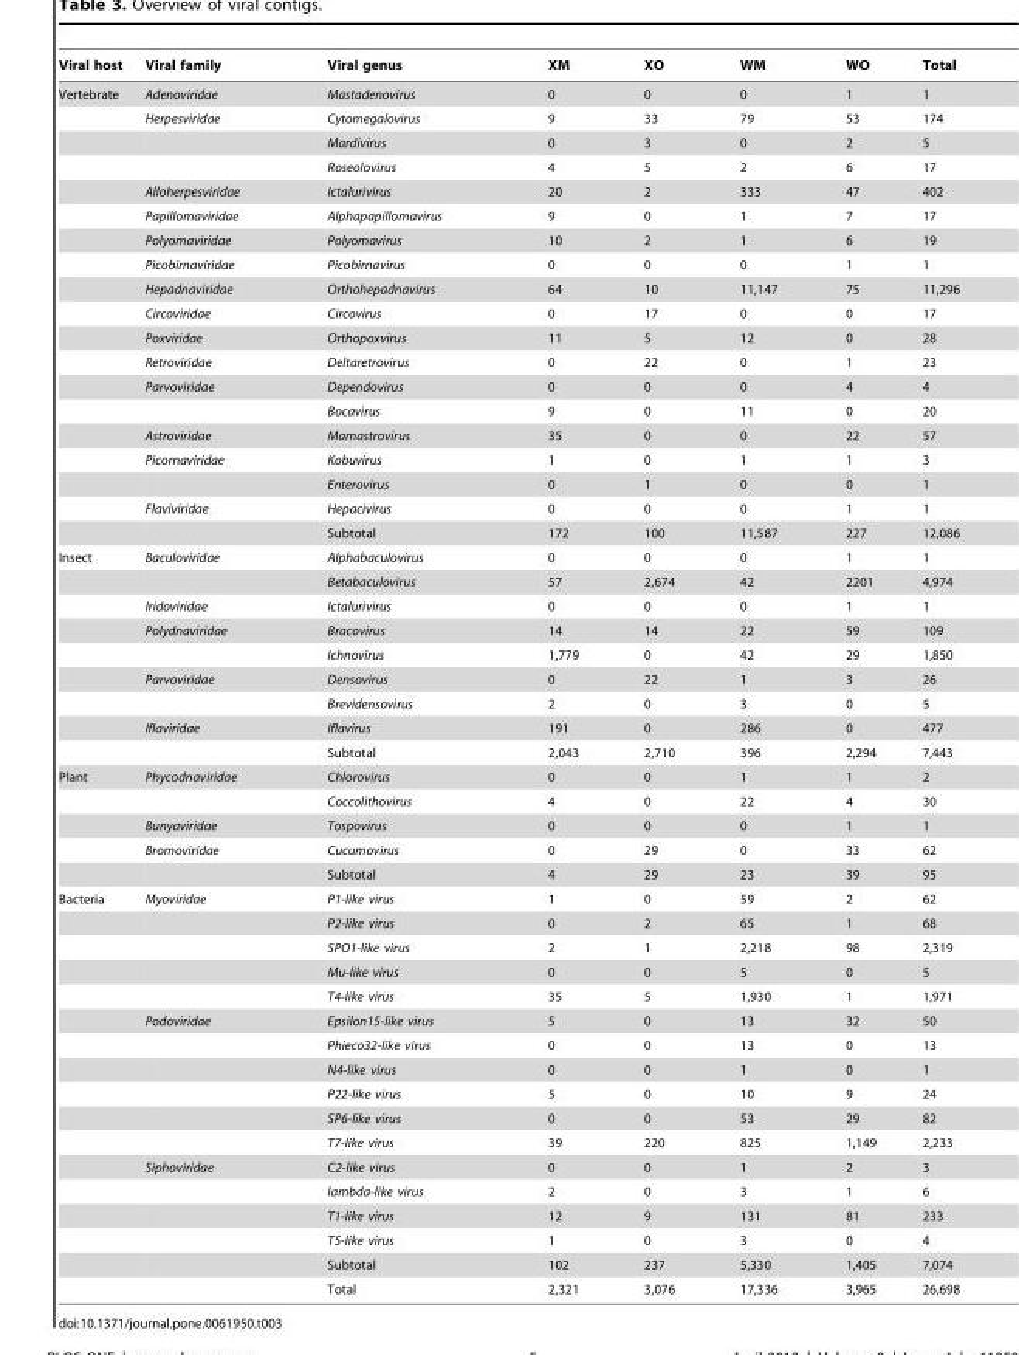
<table><thead><tr><td>Viral host</td><td>Viral family</td><td>Viral genus</td><td>XM</td><td>XO</td><td>WM</td><td>WO</td><td>Total</td></tr></thead><tbody><tr><td rowspan="19">Vertebrate</td><td>Adenoviridae</td><td>Mastadenovirus</td><td>0</td><td>0</td><td>0</td><td>1</td><td>1</td></tr><tr><td>Herpesviridae</td><td>Cytomegalovirus</td><td>9</td><td>33</td><td>79</td><td>53</td><td>174</td></tr><tr><td></td><td>Mardivirus</td><td>0</td><td>3</td><td>0</td><td>2</td><td>5</td></tr><tr><td></td><td>Roseolovirus</td><td>4</td><td>5</td><td>2</td><td>6</td><td>17</td></tr><tr><td>Alloherpesviridae</td><td>Ictalurivirus</td><td>20</td><td>2</td><td>333</td><td>47</td><td>402</td></tr><tr><td>Papillomaviridae</td><td>Alphapapillomavirus</td><td>9</td><td>0</td><td>1</td><td>7</td><td>17</td></tr><tr><td>Polyomaviridae</td><td>Polyomavirus</td><td>10</td><td>2</td><td>1</td><td>6</td><td>19</td></tr><tr><td>Picobirnaviridae</td><td>Picobirnavirus</td><td>0</td><td>0</td><td>0</td><td>1</td><td>1</td></tr><tr><td>Hepadnaviridae</td><td>Orthohepadnavirus</td><td>64</td><td>10</td><td>11,147</td><td>75</td><td>11,296</td></tr><tr><td>Circoviridae</td><td>Circovirus</td><td>0</td><td>17</td><td>0</td><td>0</td><td>17</td></tr><tr><td>Poxviridae</td><td>Orthopoxvirus</td><td>11</td><td>5</td><td>12</td><td>0</td><td>28</td></tr><tr><td>Retroviridae</td><td>Deltaretrovirus</td><td>0</td><td>22</td><td>0</td><td>1</td><td>23</td></tr><tr><td>Parvoviridae</td><td>Dependovirus</td><td>0</td><td>0</td><td>0</td><td>4</td><td>4</td></tr><tr><td></td><td>Bocavirus</td><td>9</td><td>0</td><td>11</td><td>0</td><td>20</td></tr><tr><td>Astroviridae</td><td>Mamastrovirus</td><td>35</td><td>0</td><td>0</td><td>22</td><td>57</td></tr><tr><td>Picornaviridae</td><td>Kobuvirus</td><td>1</td><td>0</td><td>1</td><td>1</td><td>3</td></tr><tr><td></td><td>Enterovirus</td><td>0</td><td>1</td><td>0</td><td>0</td><td>1</td></tr><tr><td>Flaviviridae</td><td>Hepacivirus</td><td>0</td><td>0</td><td>0</td><td>1</td><td>1</td></tr><tr><td></td><td>Subtotal</td><td>172</td><td>100</td><td>11,587</td><td>227</td><td>12,086</td></tr><tr><td rowspan="9">Insect</td><td>Baculoviridae</td><td>Alphabaculovirus</td><td>0</td><td>0</td><td>0</td><td>1</td><td>1</td></tr><tr><td></td><td>Betabaculovirus</td><td>57</td><td>2,674</td><td>42</td><td>2201</td><td>4,974</td></tr><tr><td>Iridoviridae</td><td>Ictalurivirus</td><td>0</td><td>0</td><td>0</td><td>1</td><td>1</td></tr><tr><td>Polydnaviridae</td><td>Bracovirus</td><td>14</td><td>14</td><td>22</td><td>59</td><td>109</td></tr><tr><td></td><td>Ichnovirus</td><td>1,779</td><td>0</td><td>42</td><td>29</td><td>1,850</td></tr><tr><td>Parvoviridae</td><td>Densovirus</td><td>0</td><td>22</td><td>1</td><td>3</td><td>26</td></tr><tr><td></td><td>Brevidensovirus</td><td>2</td><td>0</td><td>3</td><td>0</td><td>5</td></tr><tr><td>Iflaviridae</td><td>Iflavirus</td><td>191</td><td>0</td><td>286</td><td>0</td><td>477</td></tr><tr><td></td><td>Subtotal</td><td>2,043</td><td>2,710</td><td>396</td><td>2,294</td><td>7,443</td></tr><tr><td rowspan="5">Plant</td><td>Phycodnaviridae</td><td>Chlorovirus</td><td>0</td><td>0</td><td>1</td><td>1</td><td>2</td></tr><tr><td></td><td>Coccolithovirus</td><td>4</td><td>0</td><td>22</td><td>4</td><td>30</td></tr><tr><td>Bunyaviridae</td><td>Tospovirus</td><td>0</td><td>0</td><td>0</td><td>1</td><td>1</td></tr><tr><td>Bromoviridae</td><td>Cucumovirus</td><td>0</td><td>29</td><td>0</td><td>33</td><td>62</td></tr><tr><td></td><td>Subtotal</td><td>4</td><td>29</td><td>23</td><td>39</td><td>95</td></tr><tr><td rowspan="17">Bacteria</td><td>Myoviridae</td><td>P1-like virus</td><td>1</td><td>0</td><td>59</td><td>2</td><td>62</td></tr><tr><td></td><td>P2-like virus</td><td>0</td><td>2</td><td>65</td><td>1</td><td>68</td></tr><tr><td></td><td>SPO1-like virus</td><td>2</td><td>1</td><td>2,218</td><td>98</td><td>2,319</td></tr><tr><td></td><td>Mu-like virus</td><td>0</td><td>0</td><td>5</td><td>0</td><td>5</td></tr><tr><td></td><td>T4-like virus</td><td>35</td><td>5</td><td>1,930</td><td>1</td><td>1,971</td></tr><tr><td>Podoviridae</td><td>Epsilon15-like virus</td><td>5</td><td>0</td><td>13</td><td>32</td><td>50</td></tr><tr><td></td><td>Phieco32-like virus</td><td>0</td><td>0</td><td>13</td><td>0</td><td>13</td></tr><tr><td></td><td>N4-like virus</td><td>0</td><td>0</td><td>1</td><td>0</td><td>1</td></tr><tr><td></td><td>P22-like virus</td><td>5</td><td>0</td><td>10</td><td>9</td><td>24</td></tr><tr><td></td><td>SP6-like virus</td><td>0</td><td>0</td><td>53</td><td>29</td><td>82</td></tr><tr><td></td><td>T7-like virus</td><td>39</td><td>220</td><td>825</td><td>1,149</td><td>2,233</td></tr><tr><td>Siphoviridae</td><td>C2-like virus</td><td>0</td><td>0</td><td>1</td><td>2</td><td>3</td></tr><tr><td></td><td>lambda-like virus</td><td>2</td><td>0</td><td>3</td><td>1</td><td>6</td></tr><tr><td></td><td>T1-like virus</td><td>12</td><td>9</td><td>131</td><td>81</td><td>233</td></tr><tr><td></td><td>T5-like virus</td><td>1</td><td>0</td><td>3</td><td>0</td><td>4</td></tr><tr><td></td><td>Subtotal</td><td>102</td><td>237</td><td>5,330</td><td>1,405</td><td>7,074</td></tr><tr><td></td><td>Total</td><td>2,321</td><td>3,076</td><td>17,336</td><td>3,965</td><td>26,698</td></tr></tbody></table>